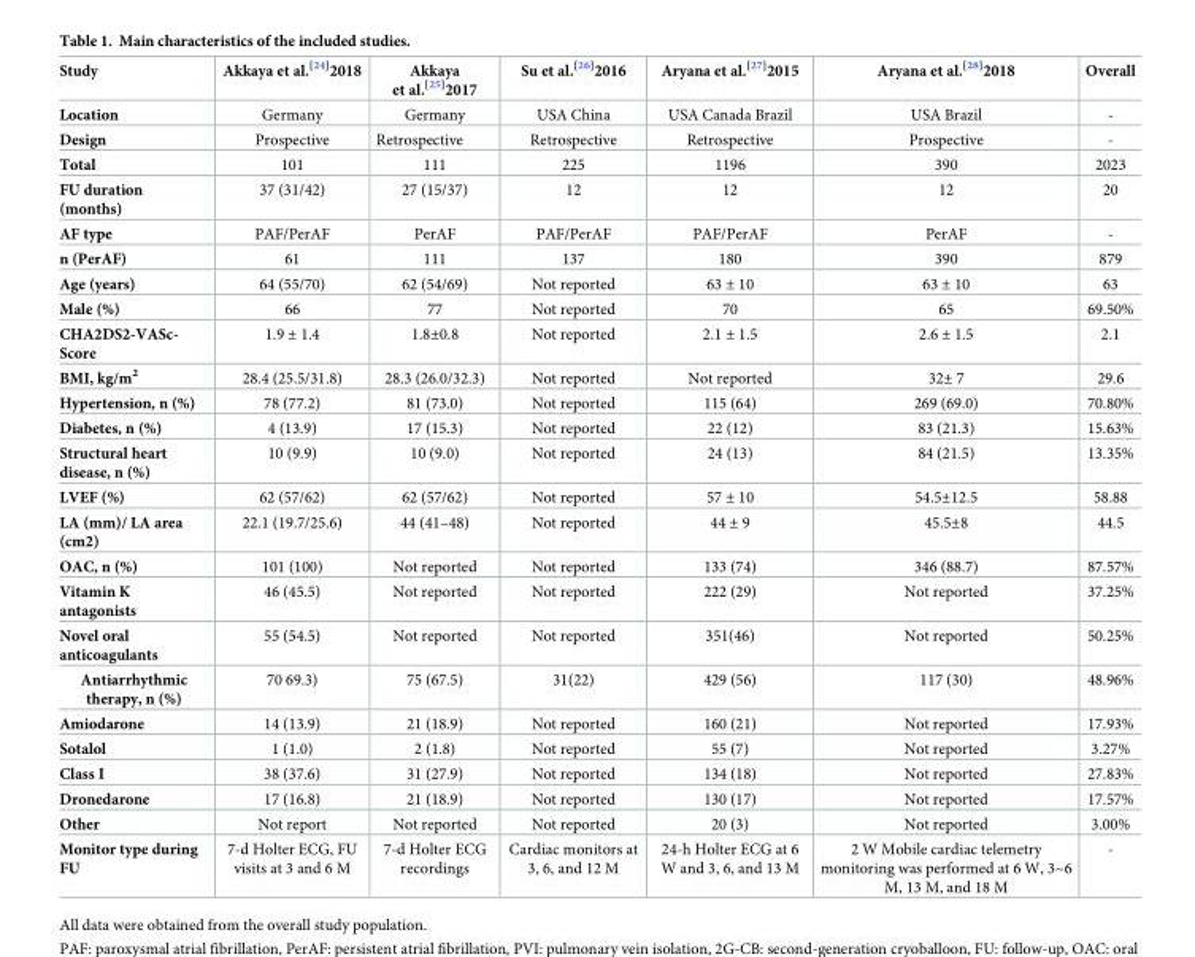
<table><thead><tr><td>Study</td><td>Akkaya et al.<sup>[24]</sup>2018</td><td>Akkaya et al.<sup>[25]</sup>2017</td><td>Su et al.<sup>[26]</sup>2016</td><td>Aryana et al.<sup>[27]</sup>2015</td><td>Aryana et al.<sup>[28]</sup>2018</td><td>Overall</td></tr></thead><tbody><tr><td>Location</td><td>Germany</td><td>Germany</td><td>USA China</td><td>USA Canada Brazil</td><td>USA Brazil</td><td>-</td></tr><tr><td>Design</td><td>Prospective</td><td>Retrospective</td><td>Retrospective</td><td>Retrospective</td><td>Prospective</td><td>-</td></tr><tr><td>Total</td><td>101</td><td>111</td><td>225</td><td>1196</td><td>390</td><td>2023</td></tr><tr><td>FU duration (months)</td><td>37 (31/42)</td><td>27 (15/37)</td><td>12</td><td>12</td><td>12</td><td>20</td></tr><tr><td>AF type</td><td>PAF/PerAF</td><td>PerAF</td><td>PAF/PerAF</td><td>PAF/PerAF</td><td>PerAF</td><td>-</td></tr><tr><td>n (PerAF)</td><td>61</td><td>111</td><td>137</td><td>180</td><td>390</td><td>879</td></tr><tr><td>Age (years)</td><td>64 (55/70)</td><td>62 (54/69)</td><td>Not reported</td><td>63 ± 10</td><td>63 ± 10</td><td>63</td></tr><tr><td>Male (%)</td><td>66</td><td>77</td><td>Not reported</td><td>70</td><td>65</td><td>69.50%</td></tr><tr><td>CHA2DS2-VASc- Score</td><td>1.9 ± 1.4</td><td>1.8±0.8</td><td>Not reported</td><td>2.1 ± 1.5</td><td>2.6 ± 1.5</td><td>2.1</td></tr><tr><td>BMI, kg/m<sup>2</sup></td><td>28.4 (25.5/31.8)</td><td>28.3 (26.0/32.3)</td><td>Not reported</td><td>Not reported</td><td>32± 7</td><td>29.6</td></tr><tr><td>Hypertension, n (%)</td><td>78 (77.2)</td><td>81 (73.0)</td><td>Not reported</td><td>115 (64)</td><td>269 (69.0)</td><td>70.80%</td></tr><tr><td>Diabetes, n (%)</td><td>4 (13.9)</td><td>17 (15.3)</td><td>Not reported</td><td>22 (12)</td><td>83 (21.3)</td><td>15.63%</td></tr><tr><td>Structural heart disease, n (%)</td><td>10 (9.9)</td><td>10 (9.0)</td><td>Not reported</td><td>24 (13)</td><td>84 (21.5)</td><td>13.35%</td></tr><tr><td>LVEF (%)</td><td>62 (57/62)</td><td>62 (57/62)</td><td>Not reported</td><td>57 ± 10</td><td>54.5±12.5</td><td>58.88</td></tr><tr><td>LA (mm)/ LA area (cm2)</td><td>22.1 (19.7/25.6)</td><td>44 (41–48)</td><td>Not reported</td><td>44 ± 9</td><td>45.5±8</td><td>44.5</td></tr><tr><td>OAC, n (%)</td><td>101 (100)</td><td>Not reported</td><td>Not reported</td><td>133 (74)</td><td>346 (88.7)</td><td>87.57%</td></tr><tr><td>Vitamin K antagonists</td><td>46 (45.5)</td><td>Not reported</td><td>Not reported</td><td>222 (29)</td><td>Not reported</td><td>37.25%</td></tr><tr><td>Novel oral anticoagulants</td><td>55 (54.5)</td><td>Not reported</td><td>Not reported</td><td>351(46)</td><td>Not reported</td><td>50.25%</td></tr><tr><td>Antiarrhythmic therapy, n (%)</td><td>70 69.3)</td><td>75 (67.5)</td><td>31(22)</td><td>429 (56)</td><td>117 (30)</td><td>48.96%</td></tr><tr><td>Amiodarone</td><td>14 (13.9)</td><td>21 (18.9)</td><td>Not reported</td><td>160 (21)</td><td>Not reported</td><td>17.93%</td></tr><tr><td>Sotalol</td><td>1 (1.0)</td><td>2 (1.8)</td><td>Not reported</td><td>55 (7)</td><td>Not reported</td><td>3.27%</td></tr><tr><td>Class I</td><td>38 (37.6)</td><td>31 (27.9)</td><td>Not reported</td><td>134 (18)</td><td>Not reported</td><td>27.83%</td></tr><tr><td>Dronedarone</td><td>17 (16.8)</td><td>21 (18.9)</td><td>Not reported</td><td>130 (17)</td><td>Not reported</td><td>17.57%</td></tr><tr><td>Other</td><td>Not report</td><td>Not reported</td><td>Not reported</td><td>20 (3)</td><td>Not reported</td><td>3.00%</td></tr><tr><td>Monitor type during FU</td><td>7-d Holter ECG, FU visits at 3 and 6 M</td><td>7-d Holter ECG recordings</td><td>Cardiac monitors at 3, 6, and 12 M</td><td>24-h Holter ECG at 6 W and 3, 6, and 13 M</td><td>2 W Mobile cardiac telemetry monitoring was performed at 6 W, 3~6 M, 13 M, and 18 M</td><td>-</td></tr></tbody></table>